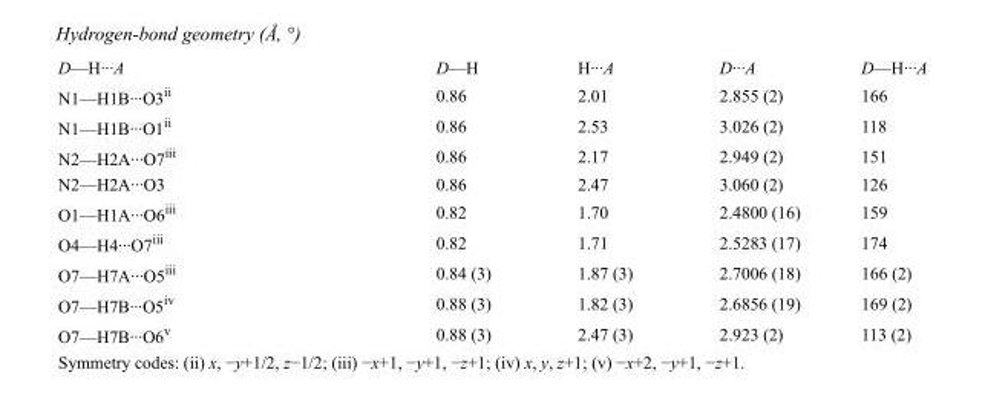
<table><tbody><tr><td>D—H···A</td><td>D—H</td><td>H···A</td><td>D···A</td><td>D—H···A</td></tr><tr><td>N1—H1B···O3<sup>ii</sup></td><td>0.86</td><td>2.01</td><td>2.855 (2)</td><td>166</td></tr><tr><td>N1—H1B···O1<sup>ii</sup></td><td>0.86</td><td>2.53</td><td>3.026 (2)</td><td>118</td></tr><tr><td>N2—H2A···O7<sup>iii</sup></td><td>0.86</td><td>2.17</td><td>2.949 (2)</td><td>151</td></tr><tr><td>N2—H2A···O3</td><td>0.86</td><td>2.47</td><td>3.060 (2)</td><td>126</td></tr><tr><td>O1—H1A···O6<sup>iii</sup></td><td>0.82</td><td>1.70</td><td>2.4800 (16)</td><td>159</td></tr><tr><td>O4—H4···O7<sup>iii</sup></td><td>0.82</td><td>1.71</td><td>2.5283 (17)</td><td>174</td></tr><tr><td>O7—H7A···O5<sup>iii</sup></td><td>0.84 (3)</td><td>1.87 (3)</td><td>2.7006 (18)</td><td>166 (2)</td></tr><tr><td>O7—H7B···O5<sup>iv</sup></td><td>0.88 (3)</td><td>1.82 (3)</td><td>2.6856 (19)</td><td>169 (2)</td></tr><tr><td>O7—H7B···O6<sup>v</sup></td><td>0.88 (3)</td><td>2.47 (3)</td><td>2.923 (2)</td><td>113 (2)</td></tr></tbody></table>